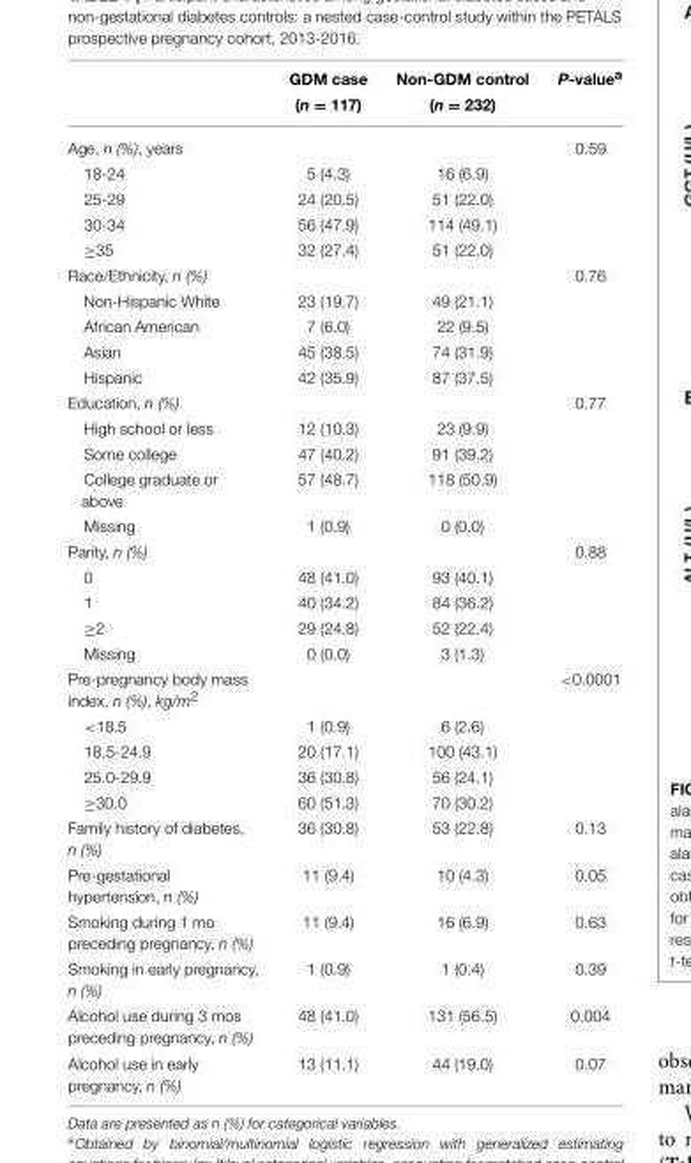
<table><thead><tr><td rowspan="2"></td><td rowspan="2">GDM case (n = 117)</td><td rowspan="2">Non-GDM control (n = 232)</td><td rowspan="2">P-value<sup>a</sup></td></tr><tr></tr></thead><tbody><tr><td>Age, n (%), years</td><td></td><td></td><td>0.59</td></tr><tr><td>18-24</td><td>5 (4.3)</td><td>16 (6.9)</td><td></td></tr><tr><td>25-29</td><td>24 (20.5)</td><td>51 (22.0)</td><td></td></tr><tr><td>30-34</td><td>56 (47.9)</td><td>114 (49.1)</td><td></td></tr><tr><td>≥35</td><td>32 (27.4)</td><td>51 (22.0)</td><td></td></tr><tr><td>Race/Ethnicity, n (%)</td><td></td><td></td><td>0.76</td></tr><tr><td>Non-Hispanic White</td><td>23 (19.7)</td><td>49 (21.1)</td><td></td></tr><tr><td>African American</td><td>7 (6.0)</td><td>22 (9.5)</td><td></td></tr><tr><td>Asian</td><td>45 (38.5)</td><td>74 (31.9)</td><td></td></tr><tr><td>Hispanic</td><td>42 (35.9)</td><td>87 (37.5)</td><td></td></tr><tr><td>Education, n (%)</td><td></td><td></td><td>0.77</td></tr><tr><td>High school or less</td><td>12 (10.3)</td><td>23 (9.9)</td><td></td></tr><tr><td>Some college</td><td>47 (40.2)</td><td>91 (39.2)</td><td></td></tr><tr><td>College graduate or above</td><td>57 (48.7)</td><td>118 (50.9)</td><td></td></tr><tr><td>Missing</td><td>1 (0.9)</td><td>0 (0.0)</td><td></td></tr><tr><td>Parity, n (%)</td><td></td><td></td><td>0.88</td></tr><tr><td>0</td><td>48 (41.0)</td><td>93 (40.1)</td><td></td></tr><tr><td>1</td><td>40 (34.2)</td><td>84 (36.2)</td><td></td></tr><tr><td>≥2</td><td>29 (24.8)</td><td>52 (22.4)</td><td></td></tr><tr><td>Missing</td><td>0 (0.0)</td><td>3 (1.3)</td><td></td></tr><tr><td>Pre-pregnancy body mass index, n (%), kg/m<sup>2</sup></td><td></td><td></td><td>&lt;0.0001</td></tr><tr><td>&lt;18.5</td><td>1 (0.9)</td><td>6 (2.6)</td><td></td></tr><tr><td>18.5-24.9</td><td>20 (17.1)</td><td>100 (43.1)</td><td></td></tr><tr><td>25.0-29.9</td><td>36 (30.8)</td><td>56 (24.1)</td><td></td></tr><tr><td>≥30.0</td><td>60 (51.3)</td><td>70 (30.2)</td><td></td></tr><tr><td>Family history of diabetes, n (%)</td><td>36 (30.8)</td><td>53 (22.8)</td><td>0.13</td></tr><tr><td>Pre-gestational hypertension, n (%)</td><td>11 (9.4)</td><td>10 (4.3)</td><td>0.05</td></tr><tr><td>Smoking during 1 mo preceding pregnancy, n (%)</td><td>11 (9.4)</td><td>16 (6.9)</td><td>0.63</td></tr><tr><td>Smoking in early pregnancy, n (%)</td><td>1 (0.9)</td><td>1 (0.4)</td><td>0.39</td></tr><tr><td>Alcohol use during 3 mos preceding pregnancy, n (%)</td><td>48 (41.0)</td><td>131 (56.5)</td><td>0.004</td></tr><tr><td>Alcohol use in early pregnancy, n (%)</td><td>13 (11.1)</td><td>44 (19.0)</td><td>0.07</td></tr></tbody></table>